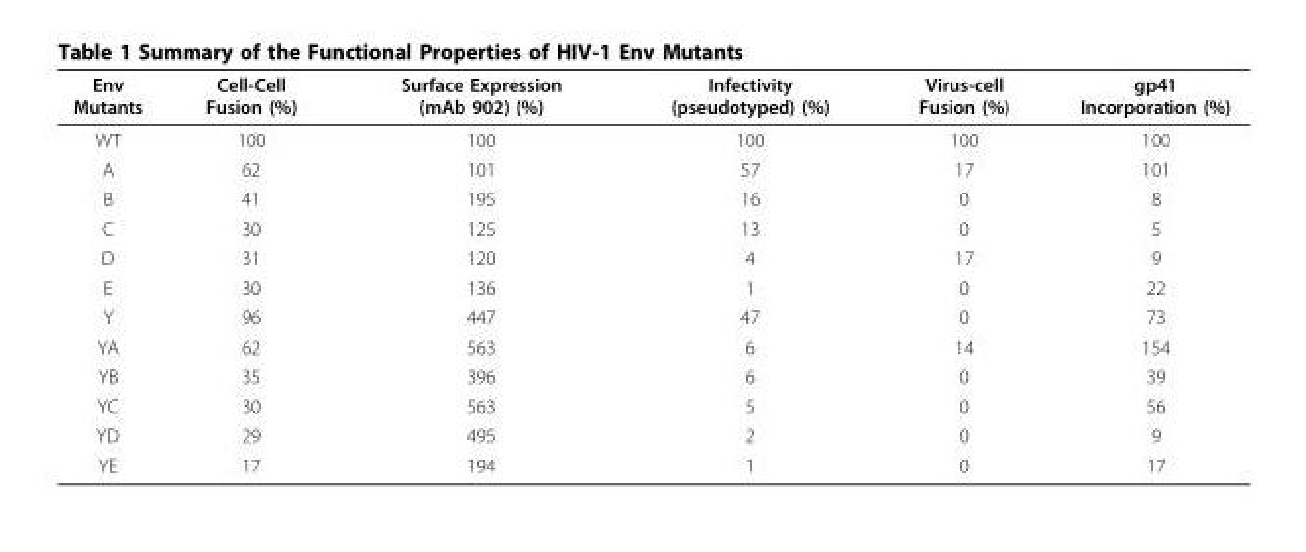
<table><thead><tr><td>Env Mutants</td><td>Cell-Cell Fusion (%)</td><td>Surface Expression (mAb 902) (%)</td><td>Infectivity (pseudotyped) (%)</td><td>Virus-cell Fusion (%)</td><td>gp41 Incorporation (%)</td></tr></thead><tbody><tr><td>WT</td><td>100</td><td>100</td><td>100</td><td>100</td><td>100</td></tr><tr><td>A</td><td>62</td><td>101</td><td>57</td><td>17</td><td>101</td></tr><tr><td>B</td><td>41</td><td>195</td><td>16</td><td>0</td><td>8</td></tr><tr><td>C</td><td>30</td><td>125</td><td>13</td><td>0</td><td>5</td></tr><tr><td>D</td><td>31</td><td>120</td><td>4</td><td>17</td><td>9</td></tr><tr><td>E</td><td>30</td><td>136</td><td>1</td><td>0</td><td>22</td></tr><tr><td>Y</td><td>96</td><td>447</td><td>47</td><td>0</td><td>73</td></tr><tr><td>YA</td><td>62</td><td>563</td><td>6</td><td>14</td><td>154</td></tr><tr><td>YB</td><td>35</td><td>396</td><td>6</td><td>0</td><td>39</td></tr><tr><td>YC</td><td>30</td><td>563</td><td>5</td><td>0</td><td>56</td></tr><tr><td>YD</td><td>29</td><td>495</td><td>2</td><td>0</td><td>9</td></tr><tr><td>YE</td><td>17</td><td>194</td><td>1</td><td>0</td><td>17</td></tr></tbody></table>